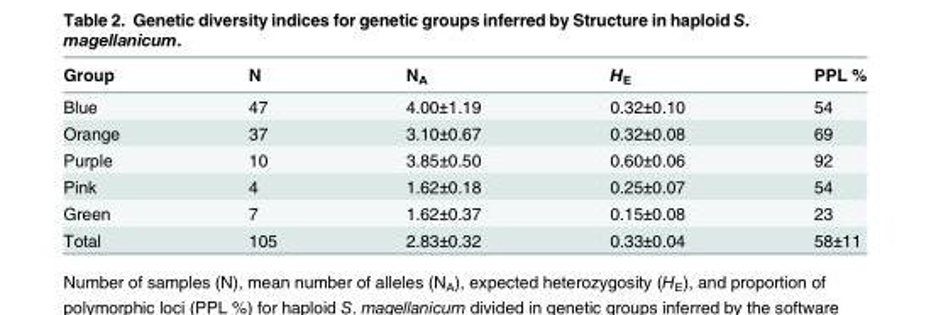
<table><thead><tr><td>Group</td><td>N</td><td>N<sub>A</sub></td><td>H<sub>E</sub></td><td>PPL %</td></tr></thead><tbody><tr><td>Blue</td><td>47</td><td>4.00±1.19</td><td>0.32±0.10</td><td>54</td></tr><tr><td>Orange</td><td>37</td><td>3.10±0.67</td><td>0.32±0.08</td><td>69</td></tr><tr><td>Purple</td><td>10</td><td>3.85±0.50</td><td>0.60±0.06</td><td>92</td></tr><tr><td>Pink</td><td>4</td><td>1.62±0.18</td><td>0.25±0.07</td><td>54</td></tr><tr><td>Green</td><td>7</td><td>1.62±0.37</td><td>0.15±0.08</td><td>23</td></tr><tr><td>Total</td><td>105</td><td>2.83±0.32</td><td>0.33±0.04</td><td>58±11</td></tr></tbody></table>